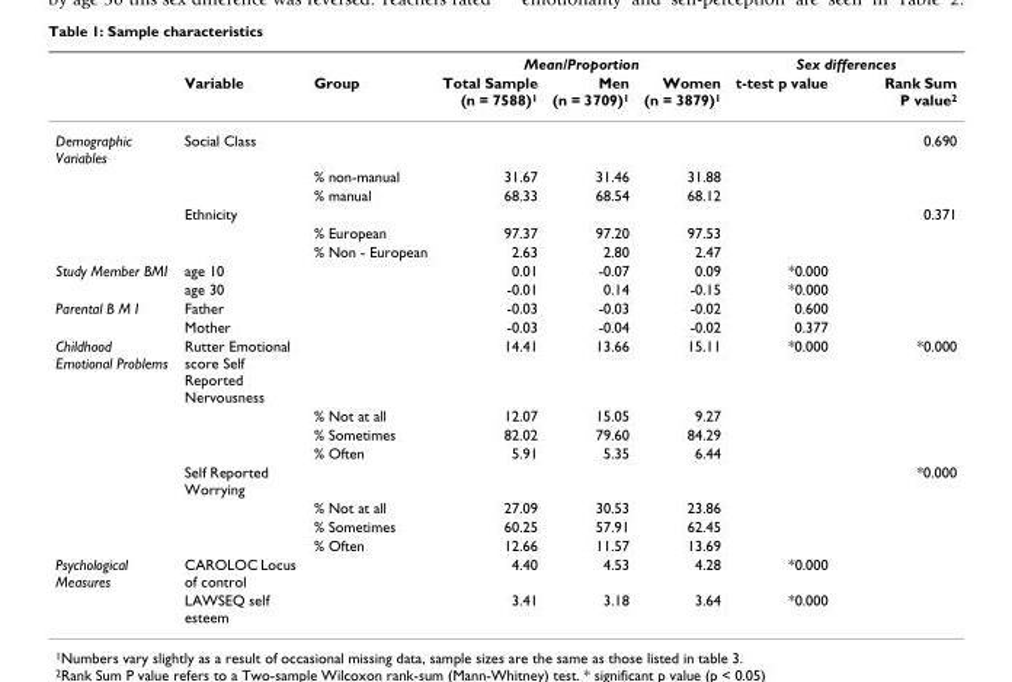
<table><thead><tr><td rowspan="2"></td><td rowspan="2">Variable</td><td rowspan="2">Group</td><td colspan="3">Mean/Proportion</td><td colspan="2">Sex differences</td></tr><tr><td>Total Sample (n = 7588)<sup>1</sup></td><td>Men (n = 3709)<sup>1</sup></td><td>Women (n = 3879)<sup>1</sup></td><td>t-test p value</td><td>Rank Sum P value<sup>2</sup></td></tr></thead><tbody><tr><td rowspan="6">Demographic Variables</td><td>Social Class</td><td></td><td></td><td></td><td></td><td></td><td>0.690</td></tr><tr><td></td><td>% non-manual</td><td>31.67</td><td>31.46</td><td>31.88</td><td></td><td></td></tr><tr><td></td><td>% manual</td><td>68.33</td><td>68.54</td><td>68.12</td><td></td><td></td></tr><tr><td>Ethnicity</td><td></td><td></td><td></td><td></td><td></td><td>0.371</td></tr><tr><td></td><td>% European</td><td>97.37</td><td>97.20</td><td>97.53</td><td></td><td></td></tr><tr><td></td><td>% Non - European</td><td>2.63</td><td>2.80</td><td>2.47</td><td></td><td></td></tr><tr><td rowspan="2">Study Member BMI</td><td>age 10</td><td></td><td>0.01</td><td>-0.07</td><td>0.09</td><td>*0.000</td><td></td></tr><tr><td>age 30</td><td></td><td>-0.01</td><td>0.14</td><td>-0.15</td><td>*0.000</td><td></td></tr><tr><td rowspan="2">Parental B M I</td><td>Father</td><td></td><td>-0.03</td><td>-0.03</td><td>-0.02</td><td>0.600</td><td></td></tr><tr><td>Mother</td><td></td><td>-0.03</td><td>-0.04</td><td>-0.02</td><td>0.377</td><td></td></tr><tr><td rowspan="8">Childhood Emotional Problems</td><td>Rutter Emotional score Self Reported Nervousness</td><td></td><td>14.41</td><td>13.66</td><td>15.11</td><td>*0.000</td><td>*0.000</td></tr><tr><td></td><td>% Not at all</td><td>12.07</td><td>15.05</td><td>9.27</td><td></td><td></td></tr><tr><td></td><td>% Sometimes</td><td>82.02</td><td>79.60</td><td>84.29</td><td></td><td></td></tr><tr><td></td><td>% Often</td><td>5.91</td><td>5.35</td><td>6.44</td><td></td><td></td></tr><tr><td>Self Reported Worrying</td><td></td><td></td><td></td><td></td><td></td><td>*0.000</td></tr><tr><td></td><td>% Not at all</td><td>27.09</td><td>30.53</td><td>23.86</td><td></td><td></td></tr><tr><td></td><td>% Sometimes</td><td>60.25</td><td>57.91</td><td>62.45</td><td></td><td></td></tr><tr><td></td><td>% Often</td><td>12.66</td><td>11.57</td><td>13.69</td><td></td><td></td></tr><tr><td rowspan="2">Psychological Measures</td><td>CAROLOC Locus of control</td><td></td><td>4.40</td><td>4.53</td><td>4.28</td><td>*0.000</td><td></td></tr><tr><td>LAWSEQ self esteem</td><td></td><td>3.41</td><td>3.18</td><td>3.64</td><td>*0.000</td><td></td></tr></tbody></table>